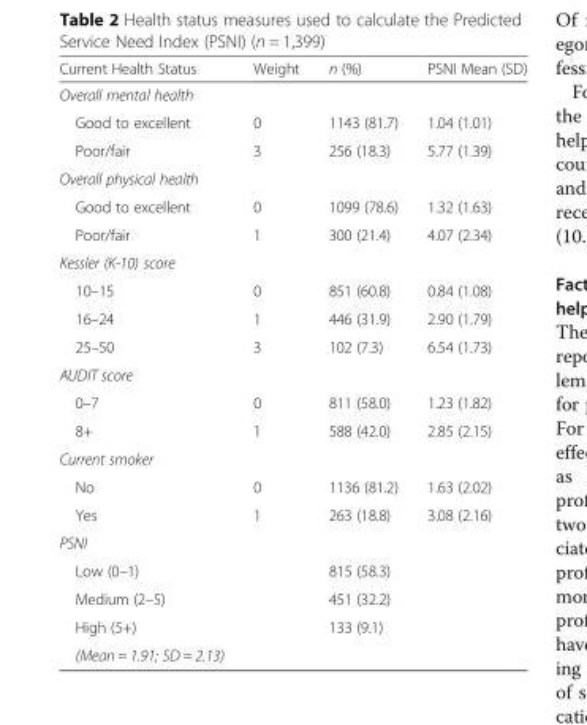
<table><thead><tr><td>Current Health Status</td><td>Weight</td><td>n (%)</td><td>PSNI Mean (SD)</td></tr></thead><tbody><tr><td colspan="4">Overall mental health</td></tr><tr><td>Good to excellent</td><td>0</td><td>1143 (81.7)</td><td>1.04 (1.01)</td></tr><tr><td>Poor/fair</td><td>3</td><td>256 (18.3)</td><td>5.77 (1.39)</td></tr><tr><td colspan="4">Overall physical health</td></tr><tr><td>Good to excellent</td><td>0</td><td>1099 (78.6)</td><td>1.32 (1.63)</td></tr><tr><td>Poor/fair</td><td>1</td><td>300 (21.4)</td><td>4.07 (2.34)</td></tr><tr><td colspan="4">Kessler (K-10) score</td></tr><tr><td>10–15</td><td>0</td><td>851 (60.8)</td><td>0.84 (1.08)</td></tr><tr><td>16–24</td><td>1</td><td>446 (31.9)</td><td>2.90 (1.79)</td></tr><tr><td>25–50</td><td>3</td><td>102 (7.3)</td><td>6.54 (1.73)</td></tr><tr><td colspan="4">AUDIT score</td></tr><tr><td>0–7</td><td>0</td><td>811 (58.0)</td><td>1.23 (1.82)</td></tr><tr><td>8+</td><td>1</td><td>588 (42.0)</td><td>2.85 (2.15)</td></tr><tr><td colspan="4">Current smoker</td></tr><tr><td>No</td><td>0</td><td>1136 (81.2)</td><td>1.63 (2.02)</td></tr><tr><td>Yes</td><td>1</td><td>263 (18.8)</td><td>3.08 (2.16)</td></tr><tr><td colspan="4">PSNI</td></tr><tr><td>Low (0–1)</td><td></td><td>815 (58.3)</td><td></td></tr><tr><td>Medium (2–5)</td><td></td><td>451 (32.2)</td><td></td></tr><tr><td>High (5+)</td><td></td><td>133 (9.1)</td><td></td></tr><tr><td>(Mean = 1.91; SD = 2.13)</td><td></td><td></td><td></td></tr></tbody></table>